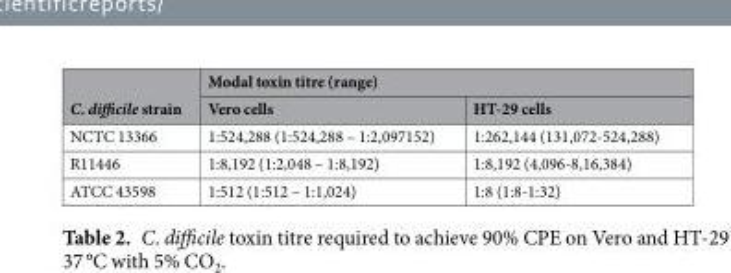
<table><thead><tr><td rowspan="2">C. difficile strain</td><td colspan="2">Modal toxin titre (range)</td></tr><tr><td>Vero cells</td><td>HT-29 cells</td></tr></thead><tbody><tr><td>NCTC 13366</td><td>1:524,288 (1:524,288 – 1:2,097152)</td><td>1:262,144 (131,072-524,288)</td></tr><tr><td>R11446</td><td>1:8,192 (1:2,048 – 1:8,192)</td><td>1:8,192 (4,096-8,16,384)</td></tr><tr><td>ATCC 43598</td><td>1:512 (1:512 – 1:1,024)</td><td>1:8 (1:8-1:32)</td></tr></tbody></table>